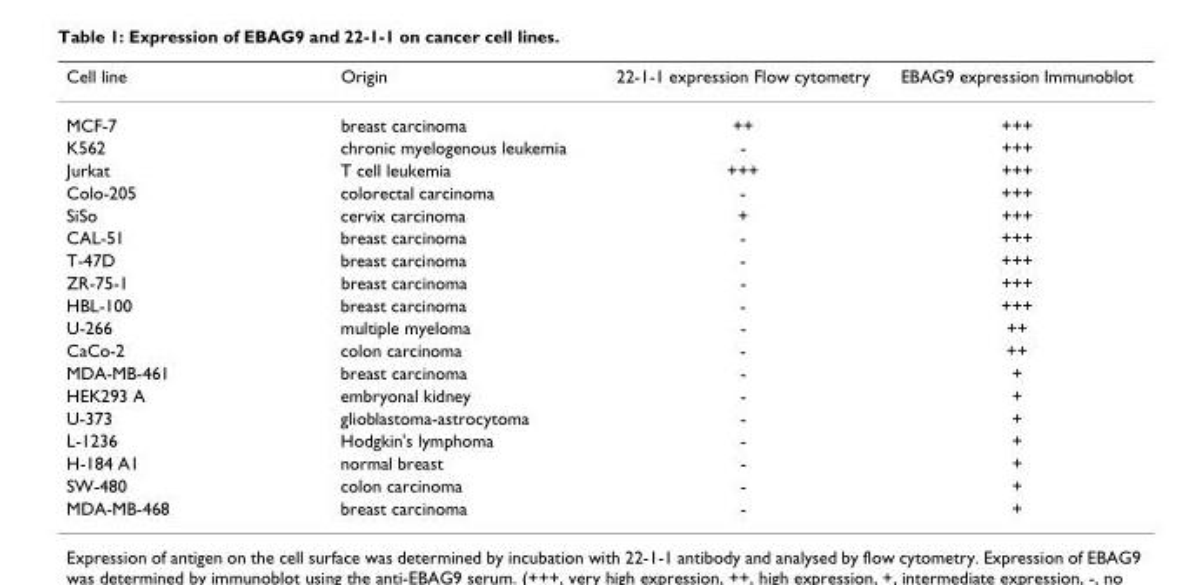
<table><thead><tr><td>Cell line</td><td>Origin</td><td>22-1-1 expression Flow cytometry</td><td>EBAG9 expression Immunoblot</td></tr></thead><tbody><tr><td>MCF-7</td><td>breast carcinoma</td><td>++</td><td>+++</td></tr><tr><td>K562</td><td>chronic myelogenous leukemia</td><td>-</td><td>+++</td></tr><tr><td>Jurkat</td><td>T cell leukemia</td><td>+++</td><td>+++</td></tr><tr><td>Colo-205</td><td>colorectal carcinoma</td><td>-</td><td>+++</td></tr><tr><td>SiSo</td><td>cervix carcinoma</td><td>+</td><td>+++</td></tr><tr><td>CAL-51</td><td>breast carcinoma</td><td>-</td><td>+++</td></tr><tr><td>T-47D</td><td>breast carcinoma</td><td>-</td><td>+++</td></tr><tr><td>ZR-75-1</td><td>breast carcinoma</td><td>-</td><td>+++</td></tr><tr><td>HBL-100</td><td>breast carcinoma</td><td>-</td><td>+++</td></tr><tr><td>U-266</td><td>multiple myeloma</td><td>-</td><td>++</td></tr><tr><td>CaCo-2</td><td>colon carcinoma</td><td>-</td><td>++</td></tr><tr><td>MDA-MB-461</td><td>breast carcinoma</td><td>-</td><td>+</td></tr><tr><td>HEK293 A</td><td>embryonal kidney</td><td>-</td><td>+</td></tr><tr><td>U-373</td><td>glioblastoma-astrocytoma</td><td>-</td><td>+</td></tr><tr><td>L-1236</td><td>Hodgkin&#x27;s lymphoma</td><td>-</td><td>+</td></tr><tr><td>H-184 A1</td><td>normal breast</td><td>-</td><td>+</td></tr><tr><td>SW-480</td><td>colon carcinoma</td><td>-</td><td>+</td></tr><tr><td>MDA-MB-468</td><td>breast carcinoma</td><td>-</td><td>+</td></tr></tbody></table>